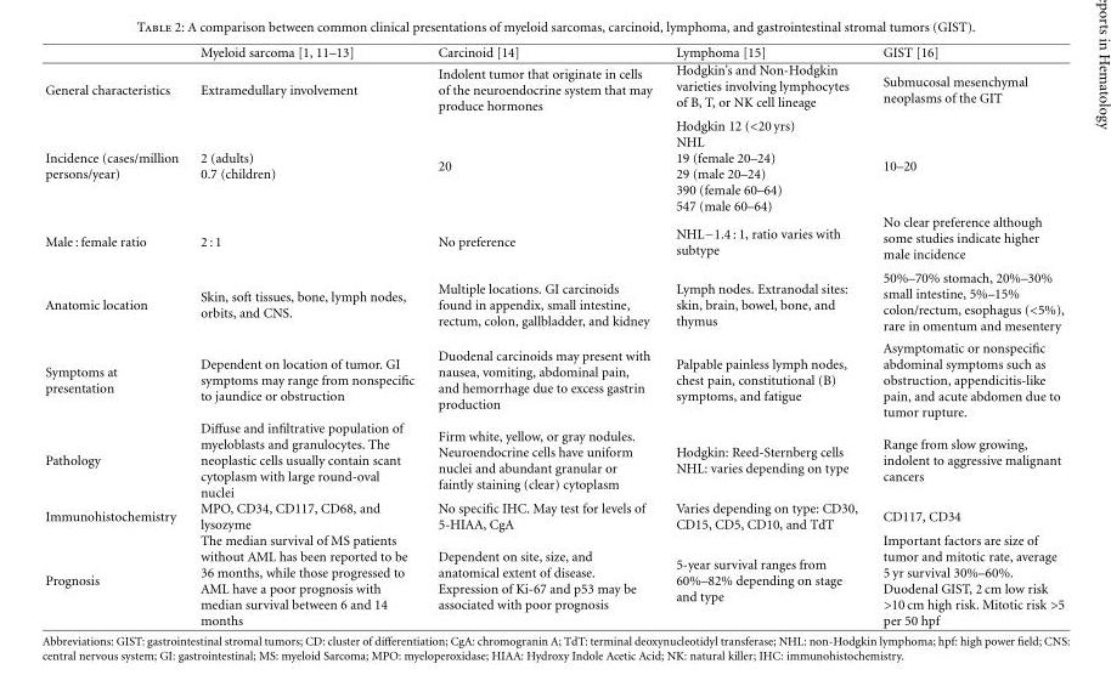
<table><thead><tr><td></td><td>Myeloid sarcoma [1, 11–13]</td><td>Carcinoid [14]</td><td>Lymphoma [15]</td><td>GIST [16]</td></tr></thead><tbody><tr><td>General characteristics</td><td>Extramedullary involvement</td><td>Indolent tumor that originate in cells of the neuroendocrine system that may produce hormones</td><td>Hodgkin’s and Non-Hodgkin varieties involving lymphocytes of B, T, or NK cell lineage</td><td>Submucosal mesenchymal neoplasms of the GIT</td></tr><tr><td>Incidence (cases/million persons/year)</td><td>2 (adults) 0.7 (children)</td><td>20</td><td>Hodgkin 12 (&lt;20 yrs) NHL 19 (female 20–24) 29 (male 20–24) 390 (female 60–64) 547 (male 60–64)</td><td>10–20</td></tr><tr><td>Male : female ratio</td><td>2 : 1</td><td>No preference</td><td>NHL−1.4 : 1, ratio varies with subtype</td><td>No clear preference although some studies indicate higher male incidence</td></tr><tr><td>Anatomic location</td><td>Skin, soft tissues, bone, lymph nodes, orbits, and CNS.</td><td>Multiple locations. GI carcinoids found in appendix, small intestine, rectum, colon, gallbladder, and kidney</td><td>Lymph nodes. Extranodal sites: skin, brain, bowel, bone, and thymus</td><td>50%–70% stomach, 20%–30% small intestine, 5%–15% colon/rectum, esophagus (&lt;5%), rare in omentum and mesentery</td></tr><tr><td>Symptoms at presentation</td><td>Dependent on location of tumor. GI symptoms may range from nonspecific to jaundice or obstruction</td><td>Duodenal carcinoids may present with nausea, vomiting, abdominal pain, and hemorrhage due to excess gastrin production</td><td>Palpable painless lymph nodes, chest pain, constitutional (B) symptoms, and fatigue</td><td>Asymptomatic or nonspecific abdominal symptoms such as obstruction, appendicitis-like pain, and acute abdomen due to tumor rupture.</td></tr><tr><td>Pathology</td><td>Diffuse and infiltrative population of myeloblasts and granulocytes. The neoplastic cells usually contain scant cytoplasm with large round-oval nuclei</td><td>Firm white, yellow, or gray nodules. Neuroendocrine cells have uniform nuclei and abundant granular or faintly staining (clear) cytoplasm</td><td>Hodgkin: Reed-Sternberg cells NHL: varies depending on type</td><td>Range from slow growing, indolent to aggressive malignant cancers</td></tr><tr><td>Immunohistochemistry</td><td>MPO, CD34, CD117, CD68, and lysozyme</td><td>No specific IHC. May test for levels of 5-HIAA, CgA</td><td>Varies depending on type: CD30, CD15, CD5, CD10, and TdT</td><td>CD117, CD34</td></tr><tr><td>Prognosis</td><td>The median survival of MS patients without AML has been reported to be 36 months, while those progressed to AML have a poor prognosis with median survival between 6 and 14 months</td><td>Dependent on site, size, and anatomical extent of disease. Expression of Ki-67 and p53 may be associated with poor prognosis</td><td>5-year survival ranges from 60%–82% depending on stage and type</td><td>Important factors are size of tumor and mitotic rate, average 5 yr survival 30%–60%. Duodenal GIST, 2 cm low risk &gt;10 cm high risk. Mitotic risk &gt;5 per 50 hpf</td></tr></tbody></table>